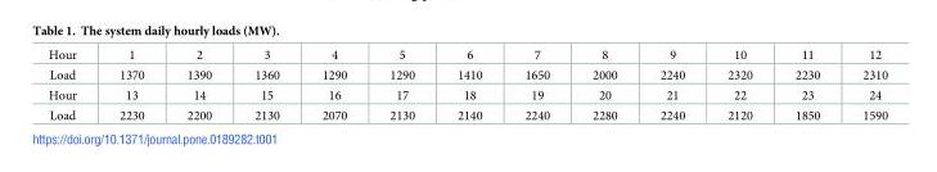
<table><tbody><tr><td>Hour</td><td>1</td><td>2</td><td>3</td><td>4</td><td>5</td><td>6</td><td>7</td><td>8</td><td>9</td><td>10</td><td>11</td><td>12</td></tr><tr><td>Load</td><td>1370</td><td>1390</td><td>1360</td><td>1290</td><td>1290</td><td>1410</td><td>1650</td><td>2000</td><td>2240</td><td>2320</td><td>2230</td><td>2310</td></tr><tr><td>Hour</td><td>13</td><td>14</td><td>15</td><td>16</td><td>17</td><td>18</td><td>19</td><td>20</td><td>21</td><td>22</td><td>23</td><td>24</td></tr><tr><td>Load</td><td>2230</td><td>2200</td><td>2130</td><td>2070</td><td>2130</td><td>2140</td><td>2240</td><td>2280</td><td>2240</td><td>2120</td><td>1850</td><td>1590</td></tr></tbody></table>